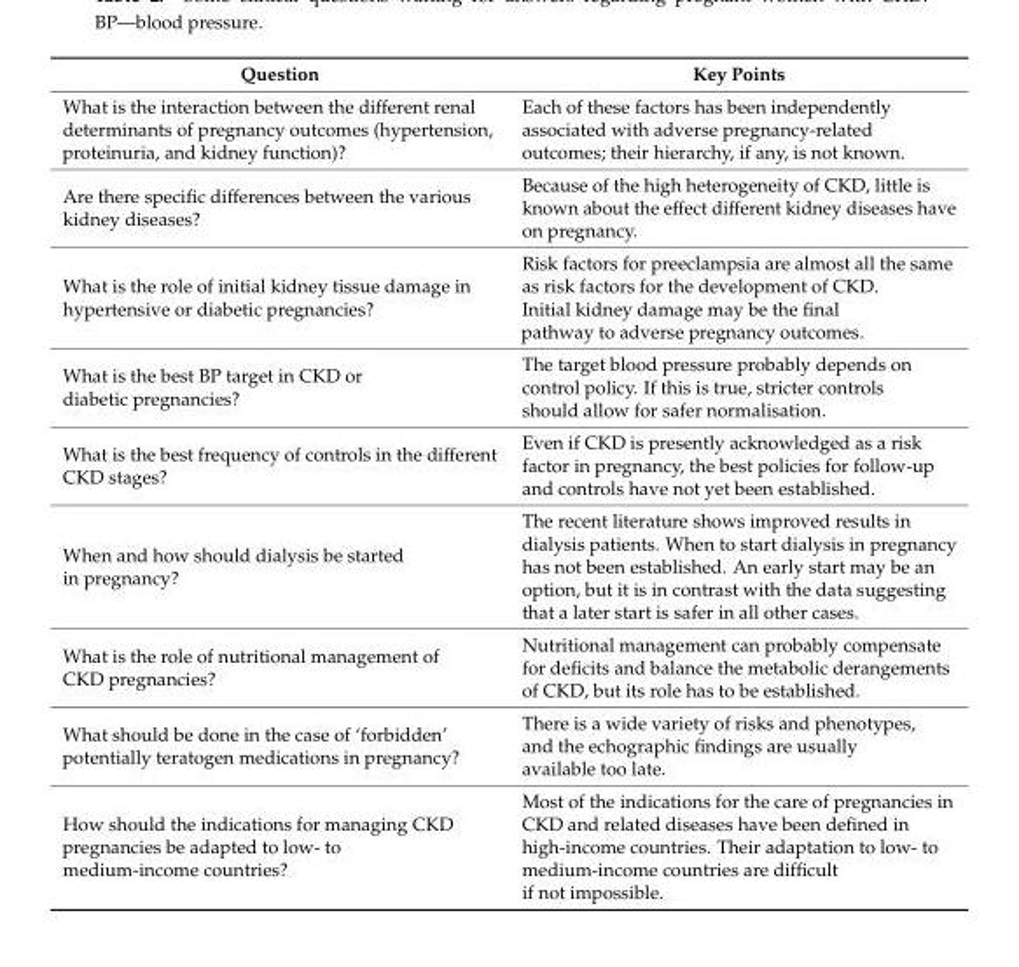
<table><thead><tr><td>Question</td><td>Key Points</td></tr></thead><tbody><tr><td>What is the interaction between the different renal determinants of pregnancy outcomes (hypertension, proteinuria, and kidney function)?</td><td>Each of these factors has been independently associated with adverse pregnancy-related outcomes; their hierarchy, if any, is not known.</td></tr><tr><td>Are there specific differences between the various kidney diseases?</td><td>Because of the high heterogeneity of CKD, little is known about the effect different kidney diseases have on pregnancy.</td></tr><tr><td>What is the role of initial kidney tissue damage in hypertensive or diabetic pregnancies?</td><td>Risk factors for preeclampsia are almost all the same as risk factors for the development of CKD. Initial kidney damage may be the final pathway to adverse pregnancy outcomes.</td></tr><tr><td>What is the best BP target in CKD or diabetic pregnancies?</td><td>The target blood pressure probably depends on control policy. If this is true, stricter controls should allow for safer normalisation.</td></tr><tr><td>What is the best frequency of controls in the different CKD stages?</td><td>Even if CKD is presently acknowledged as a risk factor in pregnancy, the best policies for follow-up and controls have not yet been established.</td></tr><tr><td>When and how should dialysis be started in pregnancy?</td><td>The recent literature shows improved results in dialysis patients. When to start dialysis in pregnancy has not been established. An early start may be an option, but it is in contrast with the data suggesting that a later start is safer in all other cases.</td></tr><tr><td>What is the role of nutritional management of CKD pregnancies?</td><td>Nutritional management can probably compensate for deficits and balance the metabolic derangements of CKD, but its role has to be established.</td></tr><tr><td>What should be done in the case of ‘forbidden’ potentially teratogen medications in pregnancy?</td><td>There is a wide variety of risks and phenotypes, and the echographic findings are usually available too late.</td></tr><tr><td>How should the indications for managing CKD pregnancies be adapted to low- to medium-income countries?</td><td>Most of the indications for the care of pregnancies in CKD and related diseases have been defined in high-income countries. Their adaptation to low- to medium-income countries are difficult if not impossible.</td></tr></tbody></table>